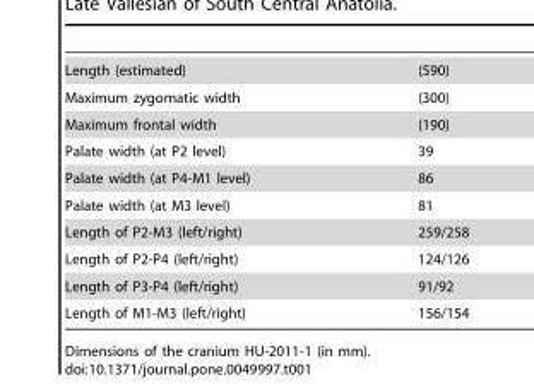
<table><tbody><tr><td>Length (estimated)</td><td>(590)</td></tr><tr><td>Maximum zygomatic width</td><td>(300)</td></tr><tr><td>Maximum frontal width</td><td>(190)</td></tr><tr><td>Palate width (at P2 level)</td><td>39</td></tr><tr><td>Palate width (at P4-M1 level)</td><td>86</td></tr><tr><td>Palate width (at M3 level)</td><td>81</td></tr><tr><td>Length of P2-M3 (left/right)</td><td>259/258</td></tr><tr><td>Length of P2-P4 (left/right)</td><td>124/126</td></tr><tr><td>Length of P3-P4 (left/right)</td><td>91/92</td></tr><tr><td>Length of M1-M3 (left/right)</td><td>156/154</td></tr></tbody></table>